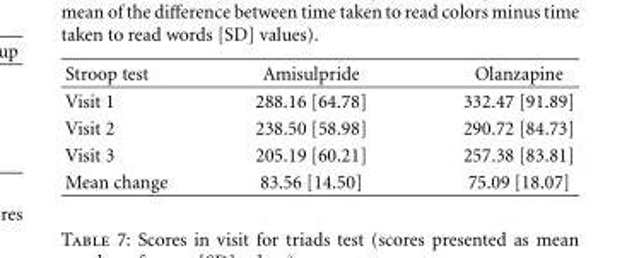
<table><thead><tr><td>Stroop test</td><td>Amisulpride</td><td>Olanzapine</td></tr></thead><tbody><tr><td>Visit 1</td><td>288.16 [64.78]</td><td>332.47 [91.89]</td></tr><tr><td>Visit 2</td><td>238.50 [58.98]</td><td>290.72 [84.73]</td></tr><tr><td>Visit 3</td><td>205.19 [60.21]</td><td>257.38 [83.81]</td></tr><tr><td>Mean change</td><td>83.56 [14.50]</td><td>75.09 [18.07]</td></tr></tbody></table>